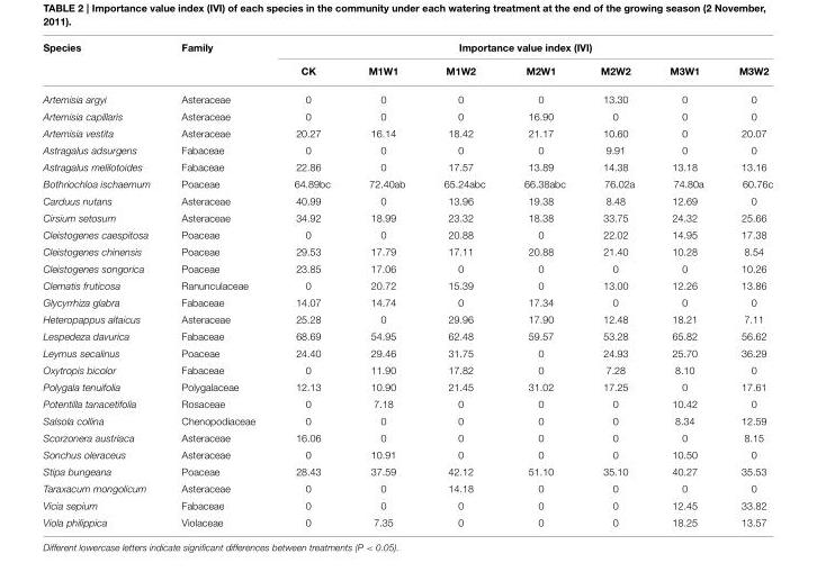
<table><thead><tr><td rowspan="2">Species</td><td rowspan="2">Family</td><td colspan="7">Importance value index (IVI)</td></tr><tr><td>CK</td><td>M1W1</td><td>M1W2</td><td>M2W1</td><td>M2W2</td><td>M3W1</td><td>M3W2</td></tr></thead><tbody><tr><td>Artemisia argyi</td><td>Asteraceae</td><td>0</td><td>0</td><td>0</td><td>0</td><td>13.30</td><td>0</td><td>0</td></tr><tr><td>Artemisia capillaris</td><td>Asteraceae</td><td>0</td><td>0</td><td>0</td><td>16.90</td><td>0</td><td>0</td><td>0</td></tr><tr><td>Artemisia vestita</td><td>Asteraceae</td><td>20.27</td><td>16.14</td><td>18.42</td><td>21.17</td><td>10.60</td><td>0</td><td>20.07</td></tr><tr><td>Astragalus adsurgens</td><td>Fabaceae</td><td>0</td><td>0</td><td>0</td><td>0</td><td>9.91</td><td>0</td><td>0</td></tr><tr><td>Astragalus melilotoides</td><td>Fabaceae</td><td>22.86</td><td>0</td><td>17.57</td><td>13.89</td><td>14.38</td><td>13.18</td><td>13.16</td></tr><tr><td>Bothriochloa ischaemum</td><td>Poaceae</td><td>64.89bc</td><td>72.40ab</td><td>65.24abc</td><td>66.38abc</td><td>76.02a</td><td>74.80a</td><td>60.76c</td></tr><tr><td>Carduus nutans</td><td>Asteraceae</td><td>40.99</td><td>0</td><td>13.96</td><td>19.38</td><td>8.48</td><td>12.69</td><td>0</td></tr><tr><td>Cirsium setosum</td><td>Asteraceae</td><td>34.92</td><td>18.99</td><td>23.32</td><td>18.38</td><td>33.75</td><td>24.32</td><td>25.66</td></tr><tr><td>Cleistogenes caespitosa</td><td>Poaceae</td><td>0</td><td>0</td><td>20.88</td><td>0</td><td>22.02</td><td>14.95</td><td>17.38</td></tr><tr><td>Cleistogenes chinensis</td><td>Poaceae</td><td>29.53</td><td>17.79</td><td>17.11</td><td>20.88</td><td>21.40</td><td>10.28</td><td>8.54</td></tr><tr><td>Cleistogenes songorica</td><td>Poaceae</td><td>23.85</td><td>17.06</td><td>0</td><td>0</td><td>0</td><td>0</td><td>10.26</td></tr><tr><td>Clematis fruticosa</td><td>Ranunculaceae</td><td>0</td><td>20.72</td><td>15.39</td><td>0</td><td>13.00</td><td>12.26</td><td>13.86</td></tr><tr><td>Glycyrrhiza glabra</td><td>Fabaceae</td><td>14.07</td><td>14.74</td><td>0</td><td>17.34</td><td>0</td><td>0</td><td>0</td></tr><tr><td>Heteropappus altaicus</td><td>Asteraceae</td><td>25.28</td><td>0</td><td>29.96</td><td>17.90</td><td>12.48</td><td>18.21</td><td>7.11</td></tr><tr><td>Lespedeza davurica</td><td>Fabaceae</td><td>68.69</td><td>54.95</td><td>62.48</td><td>59.57</td><td>53.28</td><td>65.82</td><td>56.62</td></tr><tr><td>Leymus secalinus</td><td>Poaceae</td><td>24.40</td><td>29.46</td><td>31.75</td><td>0</td><td>24.93</td><td>25.70</td><td>36.29</td></tr><tr><td>Oxytropis bicolor</td><td>Fabaceae</td><td>0</td><td>11.90</td><td>17.82</td><td>0</td><td>7.28</td><td>8.10</td><td>0</td></tr><tr><td>Polygala tenuifolia</td><td>Polygalaceae</td><td>12.13</td><td>10.90</td><td>21.45</td><td>31.02</td><td>17.25</td><td>0</td><td>17.61</td></tr><tr><td>Potentilla tanacetifolia</td><td>Rosaceae</td><td>0</td><td>7.18</td><td>0</td><td>0</td><td>0</td><td>10.42</td><td>0</td></tr><tr><td>Salsola collina</td><td>Chenopodiaceae</td><td>0</td><td>0</td><td>0</td><td>0</td><td>0</td><td>8.34</td><td>12.59</td></tr><tr><td>Scorzonera austriaca</td><td>Asteraceae</td><td>16.06</td><td>0</td><td>0</td><td>0</td><td>0</td><td>0</td><td>8.15</td></tr><tr><td>Sonchus oleraceus</td><td>Asteraceae</td><td>0</td><td>10.91</td><td>0</td><td>0</td><td>0</td><td>10.50</td><td>0</td></tr><tr><td>Stipa bungeana</td><td>Poaceae</td><td>28.43</td><td>37.59</td><td>42.12</td><td>51.10</td><td>35.10</td><td>40.27</td><td>35.53</td></tr><tr><td>Taraxacum mongolicum</td><td>Asteraceae</td><td>0</td><td>0</td><td>14.18</td><td>0</td><td>0</td><td>0</td><td>0</td></tr><tr><td>Vicia sepium</td><td>Fabaceae</td><td>0</td><td>0</td><td>0</td><td>0</td><td>0</td><td>12.45</td><td>33.82</td></tr><tr><td>Viola philippica</td><td>Violaceae</td><td>0</td><td>7.35</td><td>0</td><td>0</td><td>0</td><td>18.25</td><td>13.57</td></tr></tbody></table>